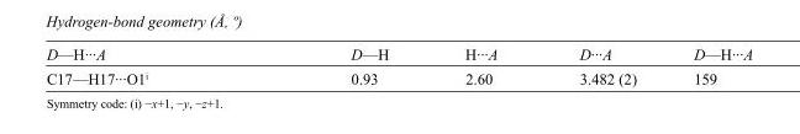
<table><tbody><tr><td>D—H···A</td><td>D—H</td><td>H···A</td><td>D···A</td><td>D—H···A</td></tr><tr><td>C17—H17···O1<sup>i</sup></td><td>0.93</td><td>2.60</td><td>3.482 (2)</td><td>159</td></tr></tbody></table>